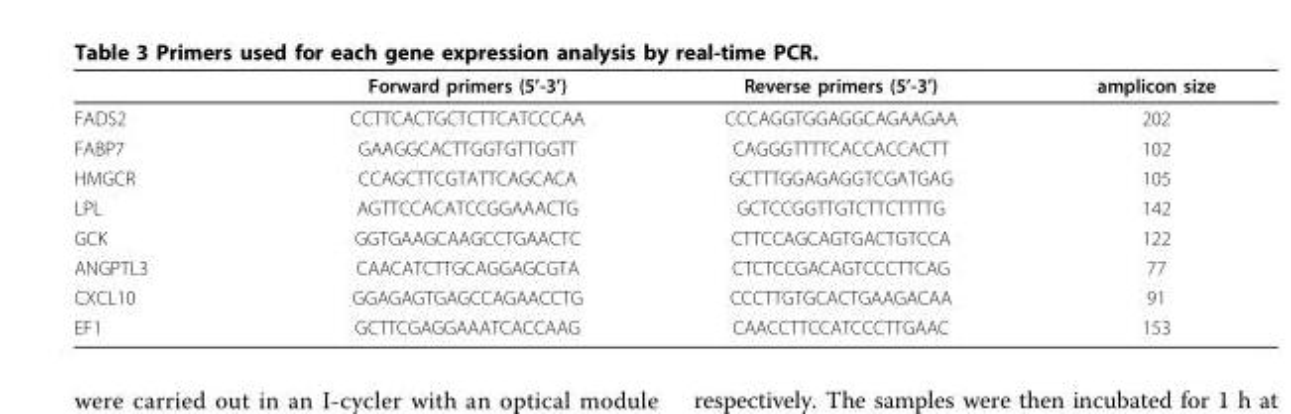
<table><thead><tr><td></td><td>Forward primers (5’-3’)</td><td>Reverse primers (5’-3’)</td><td>amplicon size</td></tr></thead><tbody><tr><td>FADS2</td><td>CCTTCACTGCTCTTCATCCCAA</td><td>CCCAGGTGGAGGCAGAAGAA</td><td>202</td></tr><tr><td>FABP7</td><td>GAAGGCACTTGGTGTTGGTT</td><td>CAGGGTTTTCACCACCACTT</td><td>102</td></tr><tr><td>HMGCR</td><td>CCAGCTTCGTATTCAGCACA</td><td>GCTTTGGAGAGGTCGATGAG</td><td>105</td></tr><tr><td>LPL</td><td>AGTTCCACATCCGGAAACTG</td><td>GCTCCGGTTGTCTTCTTTTG</td><td>142</td></tr><tr><td>GCK</td><td>GGTGAAGCAAGCCTGAACTC</td><td>CTTCCAGCAGTGACTGTCCA</td><td>122</td></tr><tr><td>ANGPTL3</td><td>CAACATCTTGCAGGAGCGTA</td><td>CTCTCCGACAGTCCCTTCAG</td><td>77</td></tr><tr><td>CXCL10</td><td>GGAGAGTGAGCCAGAACCTG</td><td>CCCTTGTGCACTGAAGACAA</td><td>91</td></tr><tr><td>EF1</td><td>GCTTCGAGGAAATCACCAAG</td><td>CAACCTTCCATCCCTTGAAC</td><td>153</td></tr></tbody></table>